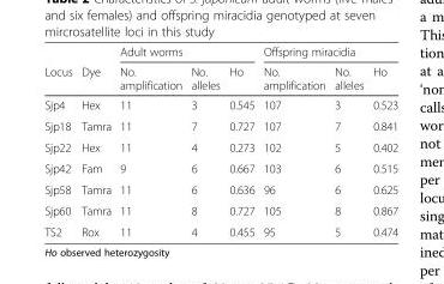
<table><thead><tr><td rowspan="2">Locus</td><td rowspan="2">Dye</td><td colspan="3">Adult worms</td><td colspan="3">Offspring miracidia</td></tr><tr><td>No. amplification</td><td>No. alleles</td><td>Ho</td><td>No. amplification</td><td>No. alleles</td><td>Ho</td></tr></thead><tbody><tr><td>Sjp4</td><td>Hex</td><td>11</td><td>3</td><td>0.545</td><td>107</td><td>3</td><td>0.523</td></tr><tr><td>Sjp18</td><td>Tamra</td><td>11</td><td>7</td><td>0.727</td><td>107</td><td>7</td><td>0.841</td></tr><tr><td>Sjp22</td><td>Hex</td><td>11</td><td>4</td><td>0.273</td><td>102</td><td>5</td><td>0.402</td></tr><tr><td>Sjp42</td><td>Fam</td><td>9</td><td>6</td><td>0.667</td><td>103</td><td>6</td><td>0.515</td></tr><tr><td>Sjp58</td><td>Tamra</td><td>11</td><td>6</td><td>0.636</td><td>96</td><td>6</td><td>0.625</td></tr><tr><td>Sjp60</td><td>Tamra</td><td>11</td><td>8</td><td>0.727</td><td>105</td><td>8</td><td>0.867</td></tr><tr><td>TS2</td><td>Rox</td><td>11</td><td>4</td><td>0.455</td><td>95</td><td>5</td><td>0.474</td></tr></tbody></table>